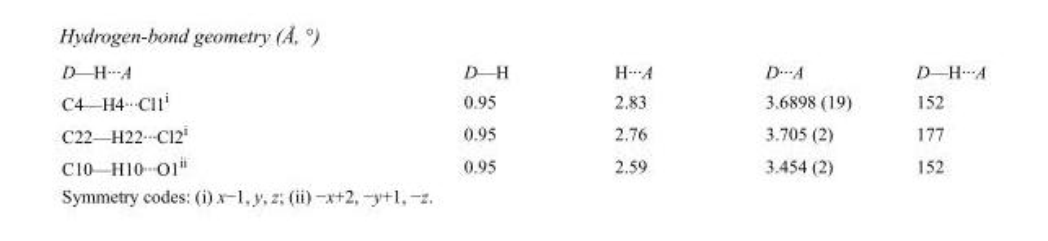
<table><tbody><tr><td>D—H···A</td><td>D—H</td><td>H···A</td><td>D···A</td><td>D—H···A</td></tr><tr><td>C4—H4···Cl1<sup>i</sup></td><td>0.95</td><td>2.83</td><td>3.6898 (19)</td><td>152</td></tr><tr><td>C22—H22···Cl2<sup>i</sup></td><td>0.95</td><td>2.76</td><td>3.705 (2)</td><td>177</td></tr><tr><td>C10—H10···O1<sup>ii</sup></td><td>0.95</td><td>2.59</td><td>3.454 (2)</td><td>152</td></tr></tbody></table>